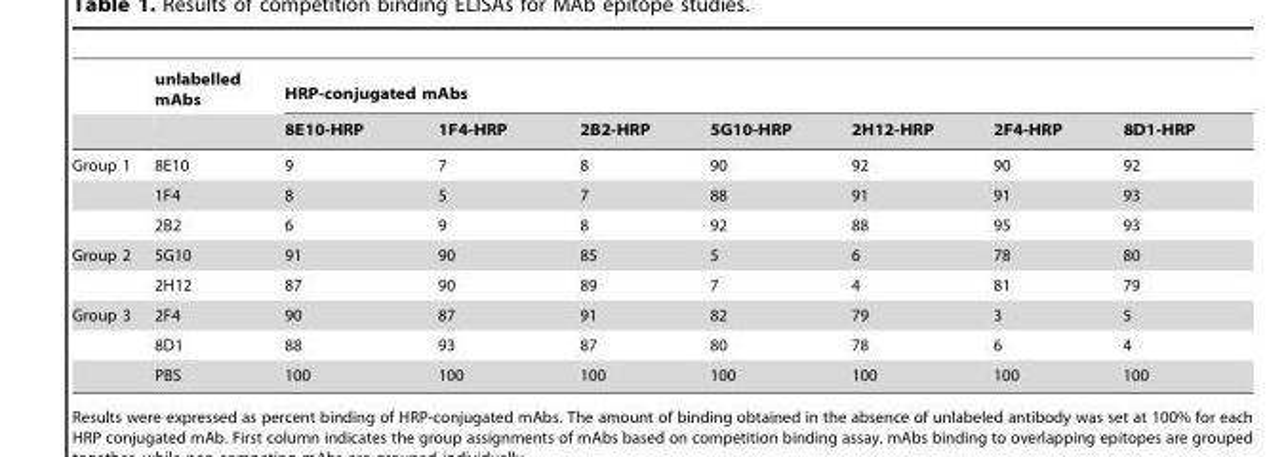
<table><thead><tr><td rowspan="2"></td><td rowspan="2">unlabelled mAbs</td><td colspan="7">HRP-conjugated mAbs</td></tr><tr><td>8E10-HRP</td><td>1F4-HRP</td><td>2B2-HRP</td><td>5G10-HRP</td><td>2H12-HRP</td><td>2F4-HRP</td><td>8D1-HRP</td></tr></thead><tbody><tr><td rowspan="3">Group 1</td><td>8E10</td><td>9</td><td>7</td><td>8</td><td>90</td><td>92</td><td>90</td><td>92</td></tr><tr><td>1F4</td><td>8</td><td>5</td><td>7</td><td>88</td><td>91</td><td>91</td><td>93</td></tr><tr><td>2B2</td><td>6</td><td>9</td><td>8</td><td>92</td><td>88</td><td>95</td><td>93</td></tr><tr><td rowspan="2">Group 2</td><td>5G10</td><td>91</td><td>90</td><td>85</td><td>5</td><td>6</td><td>78</td><td>80</td></tr><tr><td>2H12</td><td>87</td><td>90</td><td>89</td><td>7</td><td>4</td><td>81</td><td>79</td></tr><tr><td rowspan="3">Group 3</td><td>2F4</td><td>90</td><td>87</td><td>91</td><td>82</td><td>79</td><td>3</td><td>5</td></tr><tr><td>8D1</td><td>88</td><td>93</td><td>87</td><td>80</td><td>78</td><td>6</td><td>4</td></tr><tr><td>PBS</td><td>100</td><td>100</td><td>100</td><td>100</td><td>100</td><td>100</td><td>100</td></tr></tbody></table>